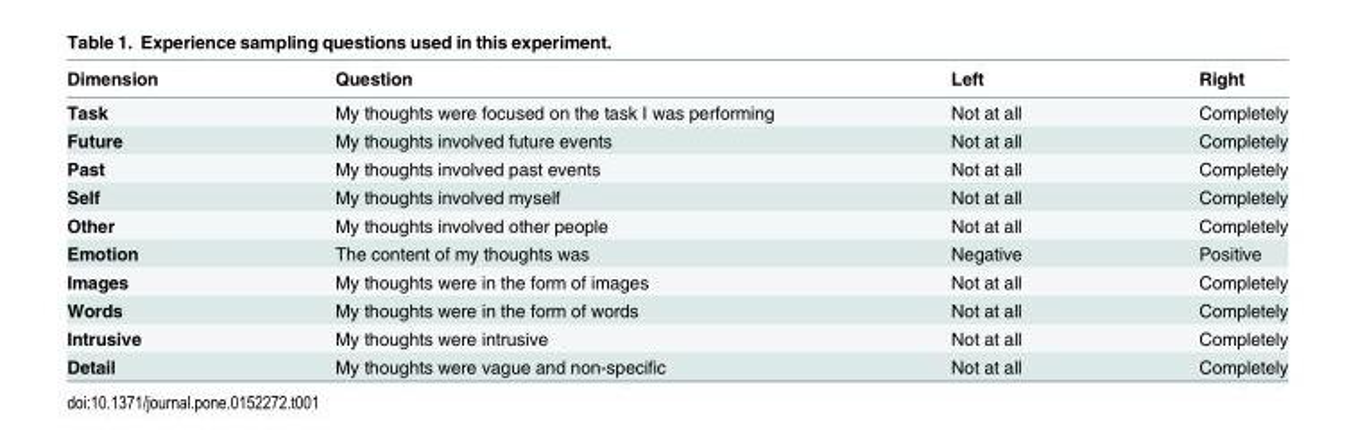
<table><thead><tr><td>Dimension</td><td>Question</td><td>Left</td><td>Right</td></tr></thead><tbody><tr><td>Task</td><td>My thoughts were focused on the task I was performing</td><td>Not at all</td><td>Completely</td></tr><tr><td>Future</td><td>My thoughts involved future events</td><td>Not at all</td><td>Completely</td></tr><tr><td>Past</td><td>My thoughts involved past events</td><td>Not at all</td><td>Completely</td></tr><tr><td>Self</td><td>My thoughts involved myself</td><td>Not at all</td><td>Completely</td></tr><tr><td>Other</td><td>My thoughts involved other people</td><td>Not at all</td><td>Completely</td></tr><tr><td>Emotion</td><td>The content of my thoughts was</td><td>Negative</td><td>Positive</td></tr><tr><td>Images</td><td>My thoughts were in the form of images</td><td>Not at all</td><td>Completely</td></tr><tr><td>Words</td><td>My thoughts were in the form of words</td><td>Not at all</td><td>Completely</td></tr><tr><td>Intrusive</td><td>My thoughts were intrusive</td><td>Not at all</td><td>Completely</td></tr><tr><td>Detail</td><td>My thoughts were vague and non-specific</td><td>Not at all</td><td>Completely</td></tr></tbody></table>